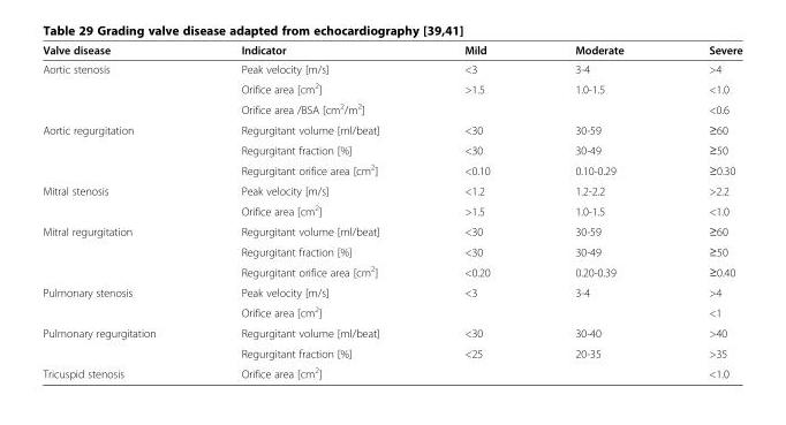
<table><thead><tr><td>Valve disease</td><td>Indicator</td><td>Mild</td><td>Moderate</td><td>Severe</td></tr></thead><tbody><tr><td rowspan="3">Aortic stenosis</td><td>Peak velocity [m/s]</td><td>&lt;3</td><td>3-4</td><td>&gt;4</td></tr><tr><td>Orifice area [cm<sup>2</sup>]</td><td>&gt;1.5</td><td>1.0-1.5</td><td>&lt;1.0</td></tr><tr><td>Orifice area /BSA [cm<sup>2</sup>/m<sup>2</sup>]</td><td></td><td></td><td>&lt;0.6</td></tr><tr><td rowspan="3">Aortic regurgitation</td><td>Regurgitant volume [ml/beat]</td><td>&lt;30</td><td>30-59</td><td>≥60</td></tr><tr><td>Regurgitant fraction [%]</td><td>&lt;30</td><td>30-49</td><td>≥50</td></tr><tr><td>Regurgitant orifice area [cm<sup>2</sup>]</td><td>&lt;0.10</td><td>0.10-0.29</td><td>≥0.30</td></tr><tr><td rowspan="2">Mitral stenosis</td><td>Peak velocity [m/s]</td><td>&lt;1.2</td><td>1.2-2.2</td><td>&gt;2.2</td></tr><tr><td>Orifice area [cm<sup>2</sup>]</td><td>&gt;1.5</td><td>1.0-1.5</td><td>&lt;1.0</td></tr><tr><td rowspan="3">Mitral regurgitation</td><td>Regurgitant volume [ml/beat]</td><td>&lt;30</td><td>30-59</td><td>≥60</td></tr><tr><td>Regurgitant fraction [%]</td><td>&lt;30</td><td>30-49</td><td>≥50</td></tr><tr><td>Regurgitant orifice area [cm<sup>2</sup>]</td><td>&lt;0.20</td><td>0.20-0.39</td><td>≥0.40</td></tr><tr><td rowspan="2">Pulmonary stenosis</td><td>Peak velocity [m/s]</td><td>&lt;3</td><td>3-4</td><td>&gt;4</td></tr><tr><td>Orifice area [cm<sup>2</sup>]</td><td></td><td></td><td>&lt;1</td></tr><tr><td rowspan="2">Pulmonary regurgitation</td><td>Regurgitant volume [ml/beat]</td><td>&lt;30</td><td>30-40</td><td>&gt;40</td></tr><tr><td>Regurgitant fraction [%]</td><td>&lt;25</td><td>20-35</td><td>&gt;35</td></tr><tr><td>Tricuspid stenosis</td><td>Orifice area [cm<sup>2</sup>]</td><td></td><td></td><td>&lt;1.0</td></tr></tbody></table>